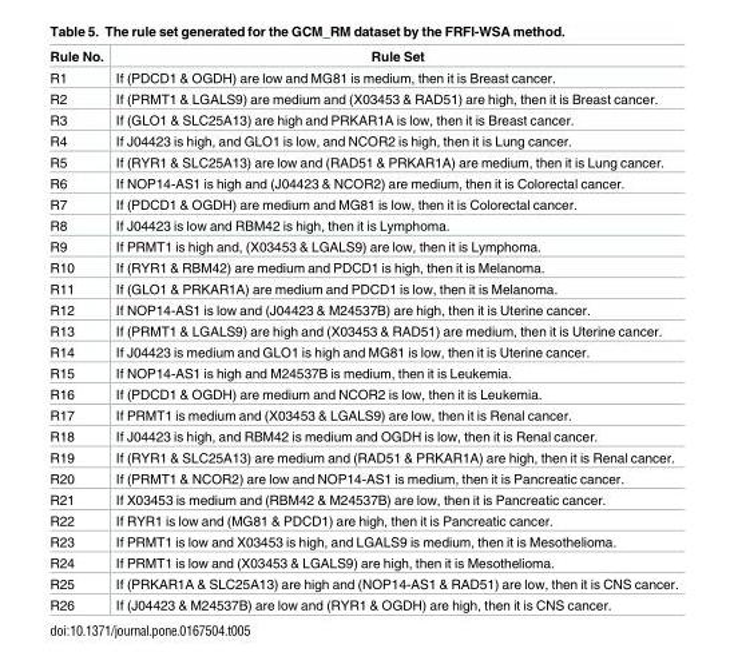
<table><thead><tr><td>Rule No.</td><td>Rule Set</td></tr></thead><tbody><tr><td>R1</td><td>If (PDCD1 &amp; OGDH) are low and MG81 is medium, then it is Breast cancer.</td></tr><tr><td>R2</td><td>If (PRMT1 &amp; LGALS9) are medium and (X03453 &amp; RAD51) are high, then it is Breast cancer.</td></tr><tr><td>R3</td><td>If (GLO1 &amp; SLC25A13) are high and PRKAR1A is low, then it is Breast cancer.</td></tr><tr><td>R4</td><td>If J04423 is high, and GLO1 is low, and NCOR2 is high, then it is Lung cancer.</td></tr><tr><td>R5</td><td>If (RYR1 &amp; SLC25A13) are low and (RAD51 &amp; PRKAR1A) are medium, then it is Lung cancer.</td></tr><tr><td>R6</td><td>If NOP14-AS1 is high and (J04423 &amp; NCOR2) are medium, then it is Colorectal cancer.</td></tr><tr><td>R7</td><td>If (PDCD1 &amp; OGDH) are medium and MG81 is low, then it is Colorectal cancer.</td></tr><tr><td>R8</td><td>If J04423 is low and RBM42 is high, then it is Lymphoma.</td></tr><tr><td>R9</td><td>If PRMT1 is high and, (X03453 &amp; LGALS9) are low, then it is Lymphoma.</td></tr><tr><td>R10</td><td>If (RYR1 &amp; RBM42) are medium and PDCD1 is high, then it is Melanoma.</td></tr><tr><td>R11</td><td>If (GLO1 &amp; PRKAR1A) are medium and PDCD1 is low, then it is Melanoma.</td></tr><tr><td>R12</td><td>If NOP14-AS1 is low and (J04423 &amp; M24537B) are high, then it is Uterine cancer.</td></tr><tr><td>R13</td><td>If (PRMT1 &amp; LGALS9) are high and (X03453 &amp; RAD51) are medium, then it is Uterine cancer.</td></tr><tr><td>R14</td><td>If J04423 is medium and GLO1 is high and MG81 is low, then it is Uterine cancer.</td></tr><tr><td>R15</td><td>If NOP14-AS1 is high and M24537B is medium, then it is Leukemia.</td></tr><tr><td>R16</td><td>If (PDCD1 &amp; OGDH) are medium and NCOR2 is low, then it is Leukemia.</td></tr><tr><td>R17</td><td>If PRMT1 is medium and (X03453 &amp; LGALS9) are low, then it is Renal cancer.</td></tr><tr><td>R18</td><td>If J04423 is high, and RBM42 is medium and OGDH is low, then it is Renal cancer.</td></tr><tr><td>R19</td><td>If (RYR1 &amp; SLC25A13) are medium and (RAD51 &amp; PRKAR1A) are high, then it is Renal cancer.</td></tr><tr><td>R20</td><td>If (PRMT1 &amp; NCOR2) are low and NOP14-AS1 is medium, then it is Pancreatic cancer.</td></tr><tr><td>R21</td><td>If X03453 is medium and (RBM42 &amp; M24537B) are low, then it is Pancreatic cancer.</td></tr><tr><td>R22</td><td>If RYR1 is low and (MG81 &amp; PDCD1) are high, then it is Pancreatic cancer.</td></tr><tr><td>R23</td><td>If PRMT1 is low and X03453 is high, and LGALS9 is medium, then it is Mesothelioma.</td></tr><tr><td>R24</td><td>If PRMT1 is low and (X03453 &amp; LGALS9) are high, then it is Mesothelioma.</td></tr><tr><td>R25</td><td>If (PRKAR1A &amp; SLC25A13) are high and (NOP14-AS1 &amp; RAD51) are low, then it is CNS cancer.</td></tr><tr><td>R26</td><td>If (J04423 &amp; M24537B) are low and (RYR1 &amp; OGDH) are high, then it is CNS cancer.</td></tr></tbody></table>